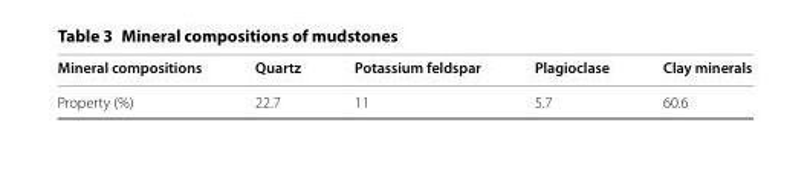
<table><thead><tr><td>Mineral compositions</td><td>Quartz</td><td>Potassium feldspar</td><td>Plagioclase</td><td>Clay minerals</td></tr></thead><tbody><tr><td>Property (%)</td><td>22.7</td><td>11</td><td>5.7</td><td>60.6</td></tr></tbody></table>